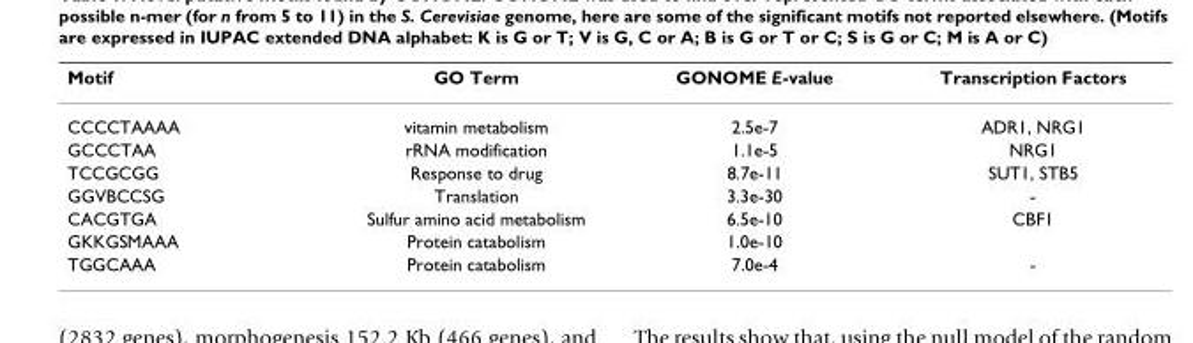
<table><thead><tr><td>Motif</td><td>GO Term</td><td>GONOME E-value</td><td>Transcription Factors</td></tr></thead><tbody><tr><td>CCCCTAAAA</td><td>vitamin metabolism</td><td>2.5e-7</td><td>ADR1, NRG1</td></tr><tr><td>GCCCTAA</td><td>rRNA modification</td><td>1.1e-5</td><td>NRG1</td></tr><tr><td>TCCGCGG</td><td>Response to drug</td><td>8.7e-11</td><td>SUT1, STB5</td></tr><tr><td>GGVBCCSG</td><td>Translation</td><td>3.3e-30</td><td>-</td></tr><tr><td>CACGTGA</td><td>Sulfur amino acid metabolism</td><td>6.5e-10</td><td>CBF1</td></tr><tr><td>GKKGSMAAA</td><td>Protein catabolism</td><td>1.0e-10</td><td></td></tr><tr><td>TGGCAAA</td><td>Protein catabolism</td><td>7.0e-4</td><td>-</td></tr></tbody></table>